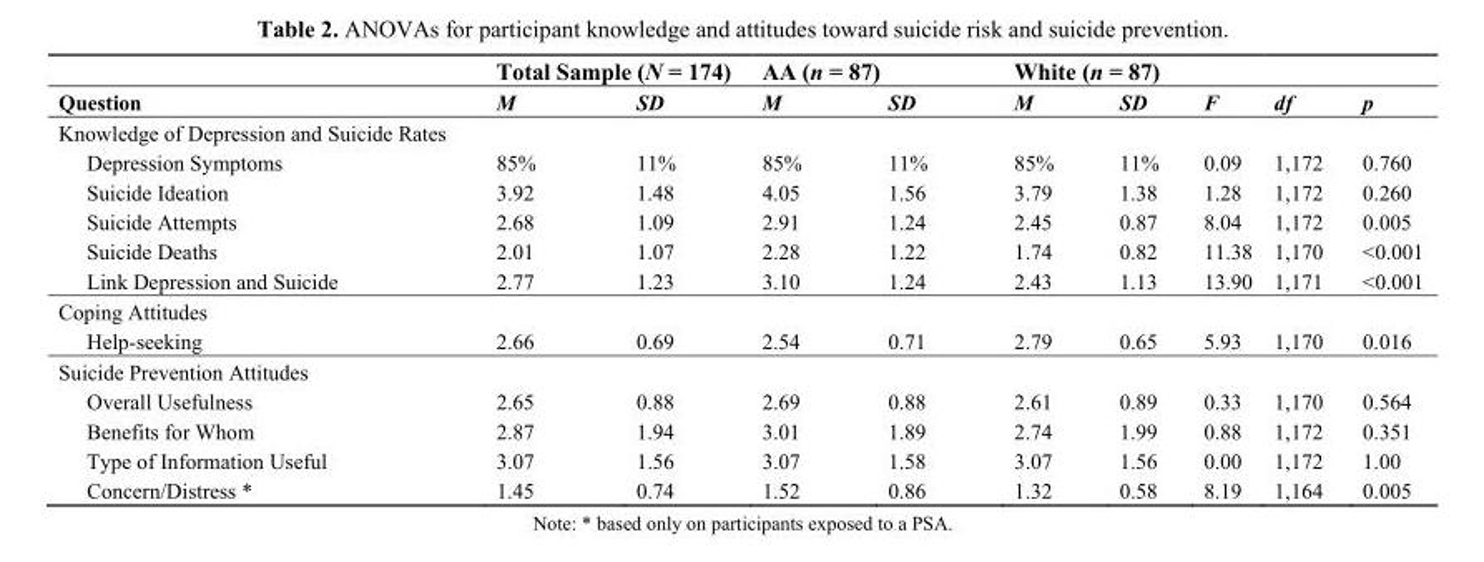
<table><thead><tr><td rowspan="2">Question</td><td colspan="2">Total Sample (N = 174)</td><td colspan="2">AA (n = 87)</td><td colspan="2">White (n = 87)</td><td rowspan="2">F</td><td rowspan="2">df</td><td rowspan="2">p</td></tr><tr><td>M</td><td>SD</td><td>M</td><td>SD</td><td>M</td><td>SD</td></tr></thead><tbody><tr><td colspan="10">Knowledge of Depression and Suicide Rates</td></tr><tr><td>Depression Symptoms</td><td>85%</td><td>11%</td><td>85%</td><td>11%</td><td>85%</td><td>11%</td><td>0.09</td><td>1,172</td><td>0.760</td></tr><tr><td>Suicide Ideation</td><td>3.92</td><td>1.48</td><td>4.05</td><td>1.56</td><td>3.79</td><td>1.38</td><td>1.28</td><td>1,172</td><td>0.260</td></tr><tr><td>Suicide Attempts</td><td>2.68</td><td>1.09</td><td>2.91</td><td>1.24</td><td>2.45</td><td>0.87</td><td>8.04</td><td>1,172</td><td>0.005</td></tr><tr><td>Suicide Deaths</td><td>2.01</td><td>1.07</td><td>2.28</td><td>1.22</td><td>1.74</td><td>0.82</td><td>11.38</td><td>1,170</td><td>&lt;0.001</td></tr><tr><td>Link Depression and Suicide</td><td>2.77</td><td>1.23</td><td>3.10</td><td>1.24</td><td>2.43</td><td>1.13</td><td>13.90</td><td>1,171</td><td>&lt;0.001</td></tr><tr><td colspan="10">Coping Attitudes</td></tr><tr><td>Help-seeking</td><td>2.66</td><td>0.69</td><td>2.54</td><td>0.71</td><td>2.79</td><td>0.65</td><td>5.93</td><td>1,170</td><td>0.016</td></tr><tr><td colspan="10">Suicide Prevention Attitudes</td></tr><tr><td>Overall Usefulness</td><td>2.65</td><td>0.88</td><td>2.69</td><td>0.88</td><td>2.61</td><td>0.89</td><td>0.33</td><td>1,170</td><td>0.564</td></tr><tr><td>Benefits for Whom</td><td>2.87</td><td>1.94</td><td>3.01</td><td>1.89</td><td>2.74</td><td>1.99</td><td>0.88</td><td>1,172</td><td>0.351</td></tr><tr><td>Type of Information Useful</td><td>3.07</td><td>1.56</td><td>3.07</td><td>1.58</td><td>3.07</td><td>1.56</td><td>0.00</td><td>1,172</td><td>1.00</td></tr><tr><td>Concern/Distress *</td><td>1.45</td><td>0.74</td><td>1.52</td><td>0.86</td><td>1.32</td><td>0.58</td><td>8.19</td><td>1,164</td><td>0.005</td></tr></tbody></table>